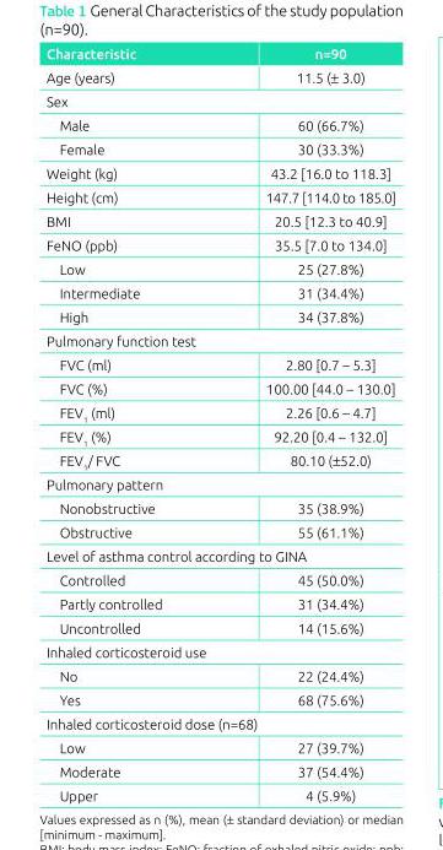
<table><thead><tr><td>Characteristic</td><td>n=90</td></tr></thead><tbody><tr><td>Age (years)</td><td>11.5 (± 3.0)</td></tr><tr><td colspan="2">Sex</td></tr><tr><td>Male</td><td>60 (66.7%)</td></tr><tr><td>Female</td><td>30 (33.3%)</td></tr><tr><td>Weight (kg)</td><td>43.2 [16.0 to 118.3]</td></tr><tr><td>Height (cm)</td><td>147.7 [114.0 to 185.0]</td></tr><tr><td>BMI</td><td>20.5 [12.3 to 40.9]</td></tr><tr><td>FeNO (ppb)</td><td>35.5 [7.0 to 134.0]</td></tr><tr><td>Low</td><td>25 (27.8%)</td></tr><tr><td>Intermediate</td><td>31 (34.4%)</td></tr><tr><td>High</td><td>34 (37.8%)</td></tr><tr><td colspan="2">Pulmonary function test</td></tr><tr><td>FVC (ml)</td><td>2.80 [0.7 – 5.3]</td></tr><tr><td>FVC (%)</td><td>100.00 [44.0 – 130.0]</td></tr><tr><td>FEV<sub>1</sub> (ml)</td><td>2.26 [0.6 – 4.7]</td></tr><tr><td>FEV<sub>1</sub> (%)</td><td>92.20 [0.4 – 132.0]</td></tr><tr><td>FEV<sub>1</sub>/ FVC</td><td>80.10 (±52.0)</td></tr><tr><td colspan="2">Pulmonary pattern</td></tr><tr><td>Nonobstructive</td><td>35 (38.9%)</td></tr><tr><td>Obstructive</td><td>55 (61.1%)</td></tr><tr><td colspan="2">Level of asthma control according to GINA</td></tr><tr><td>Controlled</td><td>45 (50.0%)</td></tr><tr><td>Partly controlled</td><td>31 (34.4%)</td></tr><tr><td>Uncontrolled</td><td>14 (15.6%)</td></tr><tr><td colspan="2">Inhaled corticosteroid use</td></tr><tr><td>No</td><td>22 (24.4%)</td></tr><tr><td>Yes</td><td>68 (75.6%)</td></tr><tr><td colspan="2">Inhaled corticosteroid dose (n=68)</td></tr><tr><td>Low</td><td>27 (39.7%)</td></tr><tr><td>Moderate</td><td>37 (54.4%)</td></tr><tr><td>Upper</td><td>4 (5.9%)</td></tr></tbody></table>